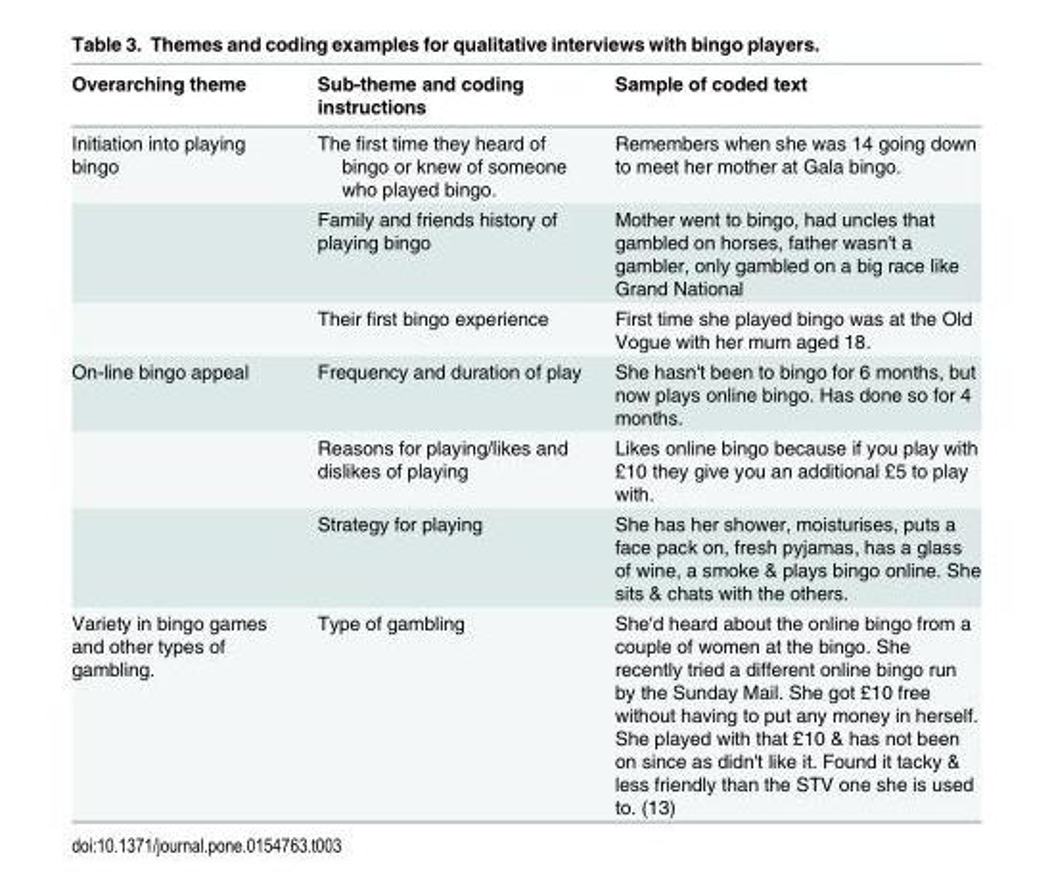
<table><thead><tr><td>Overarching theme</td><td>Sub-theme and coding instructions</td><td>Sample of coded text</td></tr></thead><tbody><tr><td rowspan="3">Initiation into playing bingo</td><td>The first time they heard of bingo or knew of someone who played bingo.</td><td>Remembers when she was 14 going down to meet her mother at Gala bingo.</td></tr><tr><td>Family and friends history of playing bingo</td><td>Mother went to bingo, had uncles that gambled on horses, father wasn&#x27;t a gambler, only gambled on a big race like Grand National</td></tr><tr><td>Their first bingo experience</td><td>First time she played bingo was at the Old Vogue with her mum aged 18.</td></tr><tr><td rowspan="3">On-line bingo appeal</td><td>Frequency and duration of play</td><td>She hasn&#x27;t been to bingo for 6 months, but now plays online bingo. Has done so for 4 months.</td></tr><tr><td>Reasons for playing/likes and dislikes of playing</td><td>Likes online bingo because if you play with £10 they give you an additional £5 to play with.</td></tr><tr><td>Strategy for playing</td><td>She has her shower, moisturises, puts a face pack on, fresh pyjamas, has a glass of wine, a smoke &amp; plays bingo online. She sits &amp; chats with the others.</td></tr><tr><td>Variety in bingo games and other types of gambling.</td><td>Type of gambling</td><td>She&#x27;d heard about the online bingo from a couple of women at the bingo. She recently tried a different online bingo run by the Sunday Mail. She got £10 free without having to put any money in herself. She played with that £10 &amp; has not been on since as didn&#x27;t like it. Found it tacky &amp; less friendly than the STV one she is used to. (13)</td></tr></tbody></table>